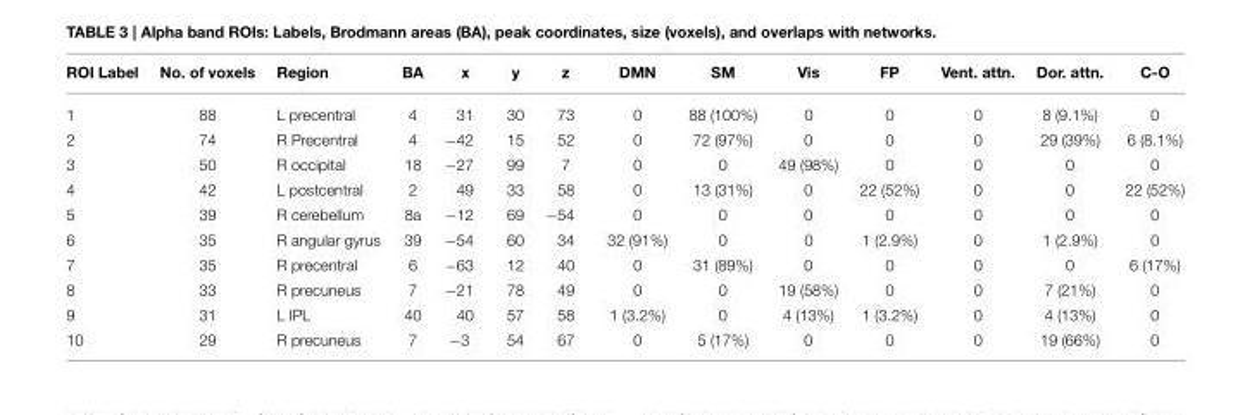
<table><thead><tr><td>ROI Label</td><td>No. of voxels</td><td>Region</td><td>BA</td><td>x</td><td>y</td><td>z</td><td>DMN</td><td>SM</td><td>Vis</td><td>FP</td><td>Vent. attn.</td><td>Dor. attn.</td><td>C-O</td></tr></thead><tbody><tr><td>1</td><td>88</td><td>L precentral</td><td>4</td><td>31</td><td>30</td><td>73</td><td>0</td><td>88 (100%)</td><td>0</td><td>0</td><td>0</td><td>8 (9.1%)</td><td>0</td></tr><tr><td>2</td><td>74</td><td>R Precentral</td><td>4</td><td>−42</td><td>15</td><td>52</td><td>0</td><td>72 (97%)</td><td>0</td><td>0</td><td>0</td><td>29 (39%)</td><td>6 (8.1%)</td></tr><tr><td>3</td><td>50</td><td>R occipital</td><td>18</td><td>−27</td><td>99</td><td>7</td><td>0</td><td>0</td><td>49 (98%)</td><td>0</td><td>0</td><td>0</td><td>0</td></tr><tr><td>4</td><td>42</td><td>L postcentral</td><td>2</td><td>49</td><td>33</td><td>58</td><td>0</td><td>13 (31%)</td><td>0</td><td>22 (52%)</td><td>0</td><td>0</td><td>22 (52%)</td></tr><tr><td>5</td><td>39</td><td>R cerebellum</td><td>8a</td><td>−12</td><td>69</td><td>−54</td><td>0</td><td>0</td><td>0</td><td>0</td><td>0</td><td>0</td><td>0</td></tr><tr><td>6</td><td>35</td><td>R angular gyrus</td><td>39</td><td>−54</td><td>60</td><td>34</td><td>32 (91%)</td><td>0</td><td>0</td><td>1 (2.9%)</td><td>0</td><td>1 (2.9%)</td><td>0</td></tr><tr><td>7</td><td>35</td><td>R precentral</td><td>6</td><td>−63</td><td>12</td><td>40</td><td>0</td><td>31 (89%)</td><td>0</td><td>0</td><td>0</td><td>0</td><td>6 (17%)</td></tr><tr><td>8</td><td>33</td><td>R precuneus</td><td>7</td><td>−21</td><td>78</td><td>49</td><td>0</td><td>0</td><td>19 (58%)</td><td>0</td><td>0</td><td>7 (21%)</td><td>0</td></tr><tr><td>9</td><td>31</td><td>L IPL</td><td>40</td><td>40</td><td>57</td><td>58</td><td>1 (3.2%)</td><td>0</td><td>4 (13%)</td><td>1 (3.2%)</td><td>0</td><td>4 (13%)</td><td>0</td></tr><tr><td>10</td><td>29</td><td>R precuneus</td><td>7</td><td>−3</td><td>54</td><td>67</td><td>0</td><td>5 (17%)</td><td>0</td><td>0</td><td>0</td><td>19 (66%)</td><td>0</td></tr></tbody></table>